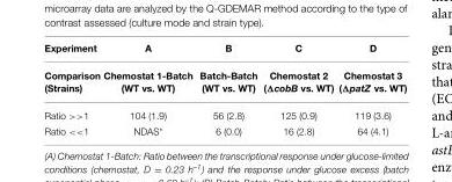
<table><thead><tr><td rowspan="2">Experiment Comparison (Strains)</td><td rowspan="2">A Chemostat 1-Batch (WT vs. WT)</td><td rowspan="2">B Batch-Batch (WT vs. WT)</td><td rowspan="2">C Chemostat 2 (ΔcobB vs. WT)</td><td rowspan="2">D Chemostat 3 (ΔpatZ vs. WT)</td></tr><tr></tr></thead><tbody><tr><td>Ratio &gt;&gt;1</td><td>104 (1.9)</td><td>56 (2.8)</td><td>125 (0.9)</td><td>119 (3.6)</td></tr><tr><td>Ratio &lt;&lt;1</td><td>NDAS*</td><td>6 (0.0)</td><td>16 (2.8)</td><td>64 (4.1)</td></tr></tbody></table>